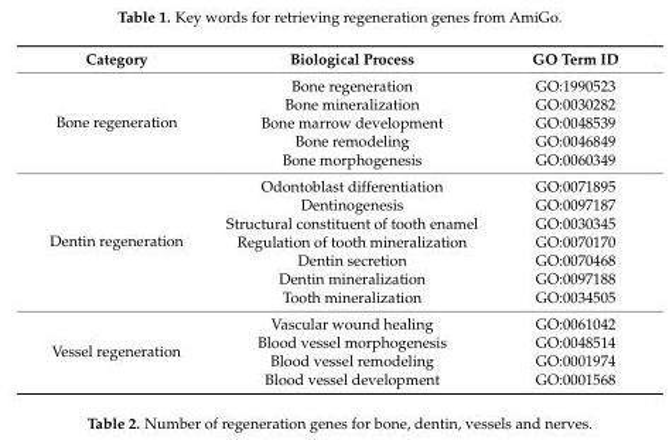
<table><thead><tr><td>Category</td><td>Biological Process</td><td>GO Term ID</td></tr></thead><tbody><tr><td rowspan="5">Bone regeneration</td><td>Bone regeneration</td><td>GO:1990523</td></tr><tr><td>Bone mineralization</td><td>GO:0030282</td></tr><tr><td>Bone marrow development</td><td>GO:0048539</td></tr><tr><td>Bone remodeling</td><td>GO:0046849</td></tr><tr><td>Bone morphogenesis</td><td>GO:0060349</td></tr><tr><td rowspan="7">Dentin regeneration</td><td>Odontoblast differentiation</td><td>GO:0071895</td></tr><tr><td>Dentinogenesis</td><td>GO:0097187</td></tr><tr><td>Structural constituent of tooth enamel</td><td>GO:0030345</td></tr><tr><td>Regulation of tooth mineralization</td><td>GO:0070170</td></tr><tr><td>Dentin secretion</td><td>GO:0070468</td></tr><tr><td>Dentin mineralization</td><td>GO:0097188</td></tr><tr><td>Tooth mineralization</td><td>GO:0034505</td></tr><tr><td rowspan="4">Vessel regeneration</td><td>Vascular wound healing</td><td>GO:0061042</td></tr><tr><td>Blood vessel morphogenesis</td><td>GO:0048514</td></tr><tr><td>Blood vessel remodeling</td><td>GO:0001974</td></tr><tr><td>Blood vessel development</td><td>GO:0001568</td></tr></tbody></table>